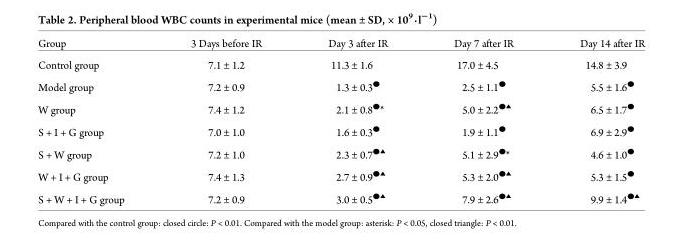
<table><thead><tr><td>Group</td><td>3 Days before IR</td><td>Day 3 after IR</td><td>Day 7 after IR</td><td>Day 14 after IR</td></tr></thead><tbody><tr><td>Control group</td><td>7.1 ± 1.2</td><td>11.3 ± 1.6</td><td>17.0 ± 4.5</td><td>14.8 ± 3.9</td></tr><tr><td>Model group</td><td>7.2 ± 0.9</td><td>1.3 ± 0.3<sup>●</sup></td><td>2.5 ± 1.1<sup>●</sup></td><td>5.5 ± 1.6<sup>●</sup></td></tr><tr><td>W group</td><td>7.4 ± 1.2</td><td>2.1 ± 0.8<sup>●</sup>*</td><td>5.0 ± 2.2●▴</td><td>6.5 ± 1.7<sup>●</sup></td></tr><tr><td>S + I + G group</td><td>7.0 ± 1.0</td><td>1.6 ± 0.3<sup>●</sup></td><td>1.9 ± 1.1<sup>●</sup></td><td>6.9 ± 2.9<sup>●</sup></td></tr><tr><td>S + W group</td><td>7.2 ± 1.0</td><td>2.3 ± 0.7●▴</td><td>5.1 ± 2.9<sup>●</sup>*</td><td>4.6 ± 1.0<sup>●</sup></td></tr><tr><td>W + I + G group</td><td>7.4 ± 1.3</td><td>2.7 ± 0.9●▴</td><td>5.3 ± 2.0●▴</td><td>5.3 ± 1.5<sup>●</sup></td></tr><tr><td>S + W + I + G group</td><td>7.2 ± 0.9</td><td>3.0 ± 0.5●▴</td><td>7.9 ± 2.6●▴</td><td>9.9 ± 1.4●▴</td></tr></tbody></table>